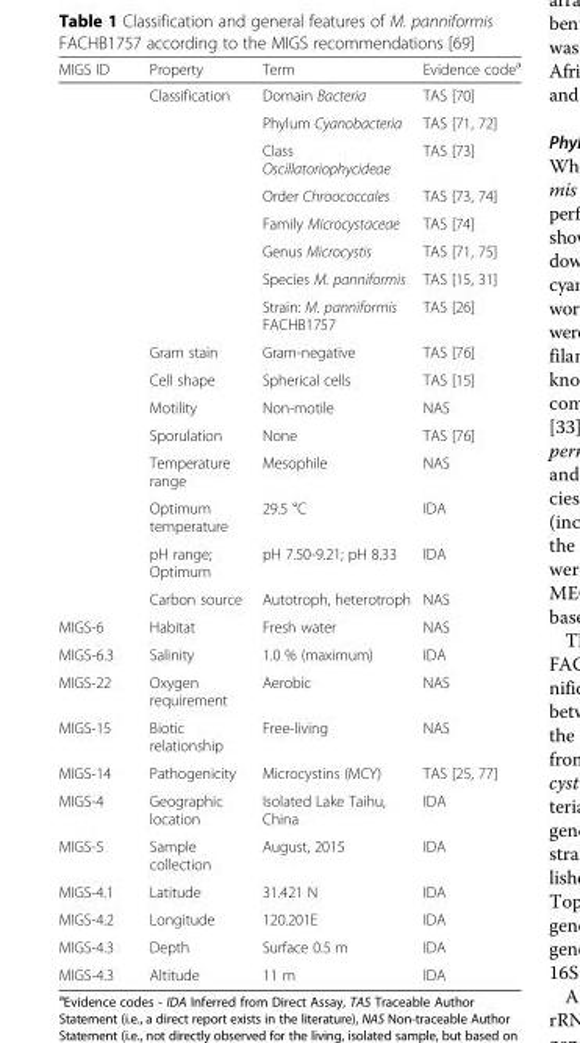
<table><thead><tr><td>MIGS ID</td><td>Property</td><td>Term</td><td>Evidence code<sup>a</sup></td></tr></thead><tbody><tr><td></td><td>Classification</td><td>Domain Bacteria</td><td>TAS [70]</td></tr><tr><td></td><td></td><td>Phylum Cyanobacteria</td><td>TAS [71, 72]</td></tr><tr><td></td><td></td><td>Class Oscillatoriophycideae</td><td>TAS [73]</td></tr><tr><td></td><td></td><td>Order Chroococcales</td><td>TAS [73, 74]</td></tr><tr><td></td><td></td><td>Family Microcystaceae</td><td>TAS [74]</td></tr><tr><td></td><td></td><td>Genus Microcystis</td><td>TAS [71, 75]</td></tr><tr><td></td><td></td><td>Species M. panniformis</td><td>TAS [15, 31]</td></tr><tr><td></td><td></td><td>Strain: M. panniformis FACHB1757</td><td>TAS [26]</td></tr><tr><td></td><td>Gram stain</td><td>Gram-negative</td><td>TAS [76]</td></tr><tr><td></td><td>Cell shape</td><td>Spherical cells</td><td>TAS [15]</td></tr><tr><td></td><td>Motility</td><td>Non-motile</td><td>NAS</td></tr><tr><td></td><td>Sporulation</td><td>None</td><td>TAS [76]</td></tr><tr><td></td><td>Temperature range</td><td>Mesophile</td><td>NAS</td></tr><tr><td></td><td>Optimum temperature</td><td>29.5 °C</td><td>IDA</td></tr><tr><td></td><td>pH range; Optimum</td><td>pH 7.50-9.21; pH 8.33</td><td>IDA</td></tr><tr><td></td><td>Carbon source</td><td>Autotroph, heterotroph</td><td>NAS</td></tr><tr><td>MIGS-6</td><td>Habitat</td><td>Fresh water</td><td>NAS</td></tr><tr><td>MIGS-6.3</td><td>Salinity</td><td>1.0 % (maximum)</td><td>IDA</td></tr><tr><td>MIGS-22</td><td>Oxygen requirement</td><td>Aerobic</td><td>NAS</td></tr><tr><td>MIGS-15</td><td>Biotic relationship</td><td>Free-living</td><td>NAS</td></tr><tr><td>MIGS-14</td><td>Pathogenicity</td><td>Microcystins (MCY)</td><td>TAS [25, 77]</td></tr><tr><td>MIGS-4</td><td>Geographic location</td><td>Isolated Lake Taihu, China</td><td>IDA</td></tr><tr><td>MIGS-5</td><td>Sample collection</td><td>August, 2015</td><td>IDA</td></tr><tr><td>MIGS-4.1</td><td>Latitude</td><td>31.421 N</td><td>IDA</td></tr><tr><td>MIGS-4.2</td><td>Longitude</td><td>120.201E</td><td>IDA</td></tr><tr><td>MIGS-4.3</td><td>Depth</td><td>Surface 0.5 m</td><td>IDA</td></tr><tr><td>MIGS-4.3</td><td>Altitude</td><td>11 m</td><td>IDA</td></tr></tbody></table>